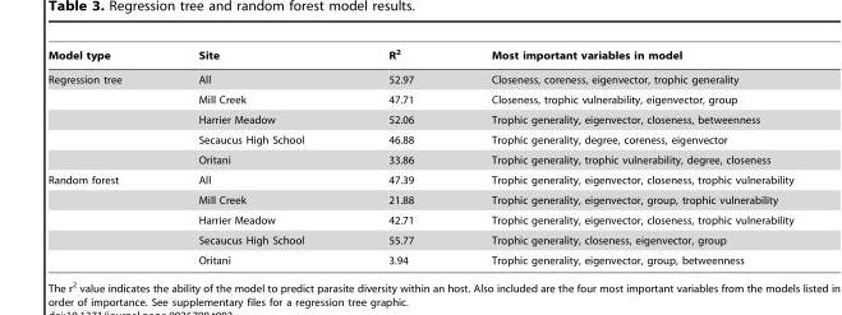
<table><thead><tr><td>Model type</td><td>Site</td><td>R<sup>2</sup></td><td>Most important variables in model</td></tr></thead><tbody><tr><td rowspan="5">Regression tree</td><td>All</td><td>52.97</td><td>Closeness, coreness, eigenvector, trophic generality</td></tr><tr><td>Mill Creek</td><td>47.71</td><td>Closeness, trophic vulnerability, eigenvector, group</td></tr><tr><td>Harrier Meadow</td><td>52.06</td><td>Trophic generality, eigenvector, closeness, betweenness</td></tr><tr><td>Secaucus High School</td><td>46.88</td><td>Trophic generality, degree, coreness, eigenvector</td></tr><tr><td>Oritani</td><td>33.86</td><td>Trophic generality, trophic vulnerability, degree, closeness</td></tr><tr><td rowspan="5">Random forest</td><td>All</td><td>47.39</td><td>Trophic generality, eigenvector, closeness, trophic vulnerability</td></tr><tr><td>Mill Creek</td><td>21.88</td><td>Trophic generality, eigenvector, group, trophic vulnerability</td></tr><tr><td>Harrier Meadow</td><td>42.71</td><td>Trophic generality, eigenvector, closeness, trophic vulnerability</td></tr><tr><td>Secaucus High School</td><td>55.77</td><td>Trophic generality, closeness, eigenvector, group</td></tr><tr><td>Oritani</td><td>3.94</td><td>Trophic generality, eigenvector, group, betweenness</td></tr></tbody></table>